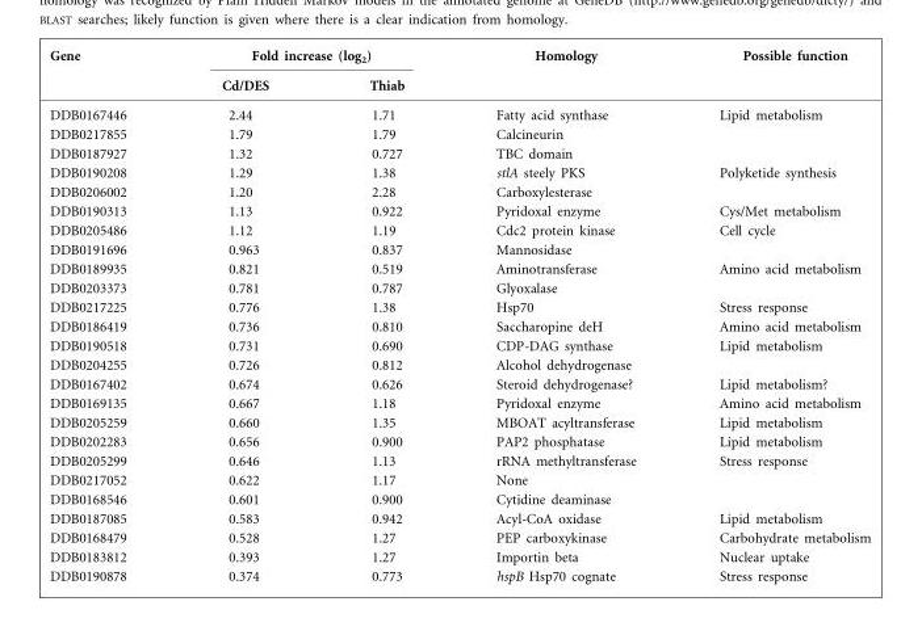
<table><thead><tr><td rowspan="2">Gene</td><td colspan="2">Fold increase (log<sub>2</sub>)</td><td rowspan="2">Homology</td><td rowspan="2">Possible function</td></tr><tr><td>Cd/DES</td><td>Thiab</td></tr></thead><tbody><tr><td>DDB0167446</td><td>2.44</td><td>1.71</td><td>Fatty acid synthase</td><td>Lipid metabolism</td></tr><tr><td>DDB0217855</td><td>1.79</td><td>1.79</td><td>Calcineurin</td><td></td></tr><tr><td>DDB0187927</td><td>1.32</td><td>0.727</td><td>TBC domain</td><td></td></tr><tr><td>DDB0190208</td><td>1.29</td><td>1.38</td><td>stlA steely PKS</td><td>Polyketide synthesis</td></tr><tr><td>DDB0206002</td><td>1.20</td><td>2.28</td><td>Carboxylesterase</td><td></td></tr><tr><td>DDB0190313</td><td>1.13</td><td>0.922</td><td>Pyridoxal enzyme</td><td>Cys/Met metabolism</td></tr><tr><td>DDB0205486</td><td>1.12</td><td>1.19</td><td>Cdc2 protein kinase</td><td>Cell cycle</td></tr><tr><td>DDB0191696</td><td>0.963</td><td>0.837</td><td>Mannosidase</td><td></td></tr><tr><td>DDB0189935</td><td>0.821</td><td>0.519</td><td>Aminotransferase</td><td>Amino acid metabolism</td></tr><tr><td>DDB0203373</td><td>0.781</td><td>0.787</td><td>Glyoxalase</td><td></td></tr><tr><td>DDB0217225</td><td>0.776</td><td>1.38</td><td>Hsp70</td><td>Stress response</td></tr><tr><td>DDB0186419</td><td>0.736</td><td>0.810</td><td>Saccharopine deH</td><td>Amino acid metabolism</td></tr><tr><td>DDB0190518</td><td>0.731</td><td>0.690</td><td>CDP-DAG synthase</td><td>Lipid metabolism</td></tr><tr><td>DDB0204255</td><td>0.726</td><td>0.812</td><td>Alcohol dehydrogenase</td><td></td></tr><tr><td>DDB0167402</td><td>0.674</td><td>0.626</td><td>Steroid dehydrogenase?</td><td>Lipid metabolism?</td></tr><tr><td>DDB0169135</td><td>0.667</td><td>1.18</td><td>Pyridoxal enzyme</td><td>Amino acid metabolism</td></tr><tr><td>DDB0205259</td><td>0.660</td><td>1.35</td><td>MBOAT acyltransferase</td><td>Lipid metabolism</td></tr><tr><td>DDB0202283</td><td>0.656</td><td>0.900</td><td>PAP2 phosphatase</td><td>Lipid metabolism</td></tr><tr><td>DDB0205299</td><td>0.646</td><td>1.13</td><td>rRNA methyltransferase</td><td>Stress response</td></tr><tr><td>DDB0217052</td><td>0.622</td><td>1.17</td><td>None</td><td></td></tr><tr><td>DDB0168546</td><td>0.601</td><td>0.900</td><td>Cytidine deaminase</td><td></td></tr><tr><td>DDB0187085</td><td>0.583</td><td>0.942</td><td>Acyl-CoA oxidase</td><td>Lipid metabolism</td></tr><tr><td>DDB0168479</td><td>0.528</td><td>1.27</td><td>PEP carboxykinase</td><td>Carbohydrate metabolism</td></tr><tr><td>DDB0183812</td><td>0.393</td><td>1.27</td><td>Importin beta</td><td>Nuclear uptake</td></tr><tr><td>DDB0190878</td><td>0.374</td><td>0.773</td><td>hspB Hsp70 cognate</td><td>Stress response</td></tr></tbody></table>